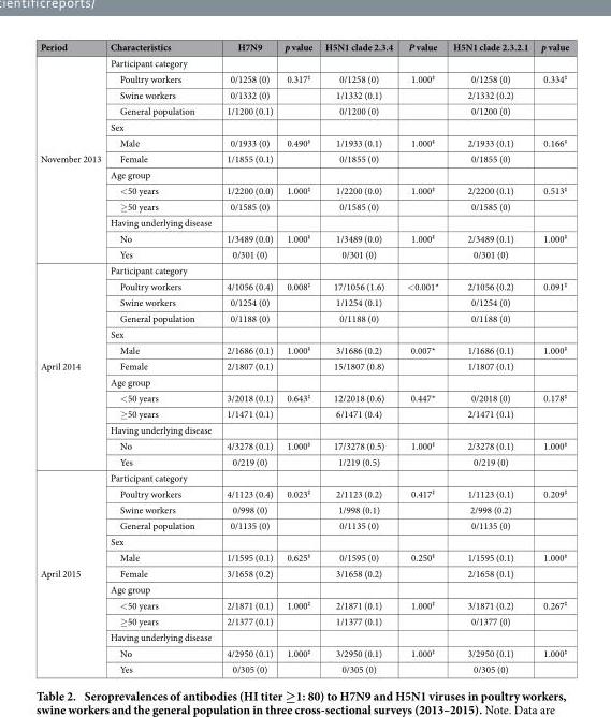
<table><thead><tr><td>Period</td><td>Characteristics</td><td>H7N9</td><td>p value</td><td>H5N1 clade 2.3.4</td><td>P value</td><td>H5N1 clade 2.3.2.1</td><td>p value</td></tr></thead><tbody><tr><td rowspan="13">November 2013</td><td>Participant category</td><td></td><td></td><td></td><td></td><td></td><td></td></tr><tr><td>Poultry workers</td><td>0/1258 (0)</td><td>0.317<sup>‡</sup></td><td>0/1258 (0)</td><td>1.000<sup>‡</sup></td><td>0/1258 (0)</td><td>0.334<sup>‡</sup></td></tr><tr><td>Swine workers</td><td>0/1332 (0)</td><td></td><td>1/1332 (0.1)</td><td></td><td>2/1332 (0.2)</td><td></td></tr><tr><td>General population</td><td>1/1200 (0.1)</td><td></td><td>0/1200 (0)</td><td></td><td>0/1200 (0)</td><td></td></tr><tr><td>Sex</td><td></td><td></td><td></td><td></td><td></td><td></td></tr><tr><td>Male</td><td>0/1933 (0)</td><td>0.490<sup>‡</sup></td><td>1/1933 (0.1)</td><td>1.000<sup>‡</sup></td><td>2/1933 (0.1)</td><td>0.166<sup>‡</sup></td></tr><tr><td>Female</td><td>1/1855 (0.1)</td><td></td><td>0/1855 (0)</td><td></td><td>0/1855 (0)</td><td></td></tr><tr><td>Age group</td><td></td><td></td><td></td><td></td><td></td><td></td></tr><tr><td>&lt; 50 years</td><td>1/2200 (0.0)</td><td>1.000<sup>‡</sup></td><td>1/2200 (0.0)</td><td>1.000<sup>‡</sup></td><td>2/2200 (0.1)</td><td>0.513<sup>‡</sup></td></tr><tr><td>≥ 50 years</td><td>0/1585 (0)</td><td></td><td>0/1585 (0)</td><td></td><td>0/1585 (0)</td><td></td></tr><tr><td>Having underlying disease</td><td></td><td></td><td></td><td></td><td></td><td></td></tr><tr><td>No</td><td>1/3489 (0.0)</td><td>1.000<sup>‡</sup></td><td>1/3489 (0.0)</td><td>1.000<sup>‡</sup></td><td>2/3489 (0.1)</td><td>1.000<sup>‡</sup></td></tr><tr><td>Yes</td><td>0/301 (0)</td><td></td><td>0/301 (0)</td><td></td><td>0/301 (0)</td><td></td></tr><tr><td rowspan="13">April 2014</td><td>Participant category</td><td></td><td></td><td></td><td></td><td></td><td></td></tr><tr><td>Poultry workers</td><td>4/1056 (0.4)</td><td>0.008<sup>‡</sup></td><td>17/1056 (1.6)</td><td>&lt; 0.001*</td><td>2/1056 (0.2)</td><td>0.091<sup>‡</sup></td></tr><tr><td>Swine workers</td><td>0/1254 (0)</td><td></td><td>1/1254 (0.1)</td><td></td><td>0/1254 (0)</td><td></td></tr><tr><td>General population</td><td>0/1188 (0)</td><td></td><td>0/1188 (0)</td><td></td><td>0/1188 (0)</td><td></td></tr><tr><td>Sex</td><td></td><td></td><td></td><td></td><td></td><td></td></tr><tr><td>Male</td><td>2/1686 (0.1)</td><td>1.000<sup>‡</sup></td><td>3/1686 (0.2)</td><td>0.007*</td><td>1/1686 (0.1)</td><td>1.000<sup>‡</sup></td></tr><tr><td>Female</td><td>2/1807 (0.1)</td><td></td><td>15/1807 (0.8)</td><td></td><td>1/1807 (0.1)</td><td></td></tr><tr><td>Age group</td><td></td><td></td><td></td><td></td><td></td><td></td></tr><tr><td>&lt; 50 years</td><td>3/2018 (0.1)</td><td>0.643<sup>‡</sup></td><td>12/2018 (0.6)</td><td>0.447*</td><td>0/2018 (0)</td><td>0.178<sup>‡</sup></td></tr><tr><td>≥ 50 years</td><td>1/1471 (0.1)</td><td></td><td>6/1471 (0.4)</td><td></td><td>2/1471 (0.1)</td><td></td></tr><tr><td>Having underlying disease</td><td></td><td></td><td></td><td></td><td></td><td></td></tr><tr><td>No</td><td>4/3278 (0.1)</td><td>1.000<sup>‡</sup></td><td>17/3278 (0.5)</td><td>1.000<sup>‡</sup></td><td>2/3278 (0.1)</td><td>1.000<sup>‡</sup></td></tr><tr><td>Yes</td><td>0/219 (0)</td><td></td><td>1/219 (0.5)</td><td></td><td>0/219 (0)</td><td></td></tr><tr><td rowspan="13">April 2015</td><td>Participant category</td><td></td><td></td><td></td><td></td><td></td><td></td></tr><tr><td>Poultry workers</td><td>4/1123 (0.4)</td><td>0.023<sup>‡</sup></td><td>2/1123 (0.2)</td><td>0.417<sup>‡</sup></td><td>1/1123 (0.1)</td><td>0.209<sup>‡</sup></td></tr><tr><td>Swine workers</td><td>0/998 (0)</td><td></td><td>1/998 (0.1)</td><td></td><td>2/998 (0.2)</td><td></td></tr><tr><td>General population</td><td>0/1135 (0)</td><td></td><td>0/1135 (0)</td><td></td><td>0/1135 (0)</td><td></td></tr><tr><td>Sex</td><td></td><td></td><td></td><td></td><td></td><td></td></tr><tr><td>Male</td><td>1/1595 (0.1)</td><td>0.625<sup>‡</sup></td><td>0/1595 (0)</td><td>0.250<sup>‡</sup></td><td>1/1595 (0.1)</td><td>1.000<sup>‡</sup></td></tr><tr><td>Female</td><td>3/1658 (0.2)</td><td></td><td>3/1658 (0.2)</td><td></td><td>2/1658 (0.1)</td><td></td></tr><tr><td>Age group</td><td></td><td></td><td></td><td></td><td></td><td></td></tr><tr><td>&lt; 50 years</td><td>2/1871 (0.1)</td><td>1.000<sup>‡</sup></td><td>2/1871 (0.1)</td><td>1.000<sup>‡</sup></td><td>3/1871 (0.2)</td><td>0.267<sup>‡</sup></td></tr><tr><td>≥ 50 years</td><td>2/1377 (0.1)</td><td></td><td>1/1377 (0.1)</td><td></td><td>0/1377 (0)</td><td></td></tr><tr><td>Having underlying disease</td><td></td><td></td><td></td><td></td><td></td><td></td></tr><tr><td>No</td><td>4/2950 (0.1)</td><td>1.000<sup>‡</sup></td><td>3/2950 (0.1)</td><td>1.000<sup>‡</sup></td><td>3/2950 (0.1)</td><td>1.000<sup>‡</sup></td></tr><tr><td>Yes</td><td>0/305 (0)</td><td></td><td>0/305 (0)</td><td></td><td>0/305 (0)</td><td></td></tr></tbody></table>